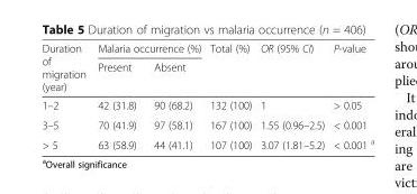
<table><thead><tr><td rowspan="2">Duration of migration (year)</td><td colspan="2">Malaria occurrence (%)</td><td rowspan="2">Total (%)</td><td rowspan="2">OR (95% CI)</td><td rowspan="2">P-value</td></tr><tr><td>Present</td><td>Absent</td></tr></thead><tbody><tr><td>1–2</td><td>42 (31.8)</td><td>90 (68.2)</td><td>132 (100)</td><td>1</td><td>&gt; 0.05</td></tr><tr><td>3–5</td><td>70 (41.9)</td><td>97 (58.1)</td><td>167 (100)</td><td>1.55 (0.96–2.5)</td><td>&lt; 0.001</td></tr><tr><td>&gt; 5</td><td>63 (58.9)</td><td>44 (41.1)</td><td>107 (100)</td><td>3.07 (1.81–5.2)</td><td>&lt; 0.001 <sup>a</sup></td></tr></tbody></table>